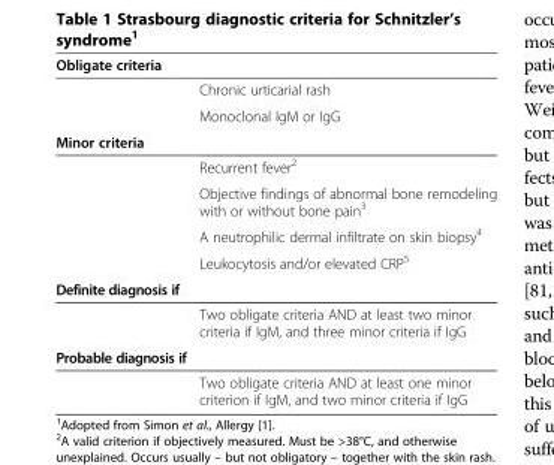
<table><tbody><tr><td colspan="2">Obligate criteria</td></tr><tr><td></td><td>Chronic urticarial rash</td></tr><tr><td></td><td>Monoclonal IgM or IgG</td></tr><tr><td colspan="2">Minor criteria</td></tr><tr><td></td><td>Recurrent fever<sup>2</sup></td></tr><tr><td></td><td>Objective findings of abnormal bone remodeling with or without bone pain<sup>3</sup></td></tr><tr><td></td><td>A neutrophilic dermal infiltrate on skin biopsy<sup>4</sup></td></tr><tr><td></td><td>Leukocytosis and/or elevated CRP<sup>5</sup></td></tr><tr><td colspan="2">Definite diagnosis if</td></tr><tr><td></td><td>Two obligate criteria AND at least two minor criteria if IgM, and three minor criteria if IgG</td></tr><tr><td colspan="2">Probable diagnosis if</td></tr><tr><td></td><td>Two obligate criteria AND at least one minor criterion if IgM, and two minor criteria if IgG</td></tr></tbody></table>